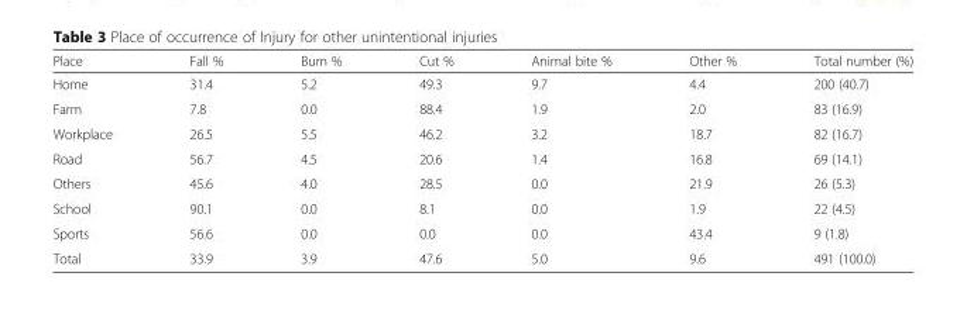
<table><thead><tr><td>Place</td><td>Fall %</td><td>Burn %</td><td>Cut %</td><td>Animal bite %</td><td>Other %</td><td>Total number (%)</td></tr></thead><tbody><tr><td>Home</td><td>31.4</td><td>5.2</td><td>49.3</td><td>9.7</td><td>4.4</td><td>200 (40.7)</td></tr><tr><td>Farm</td><td>7.8</td><td>0.0</td><td>88.4</td><td>1.9</td><td>2.0</td><td>83 (16.9)</td></tr><tr><td>Workplace</td><td>26.5</td><td>5.5</td><td>46.2</td><td>3.2</td><td>18.7</td><td>82 (16.7)</td></tr><tr><td>Road</td><td>56.7</td><td>4.5</td><td>20.6</td><td>1.4</td><td>16.8</td><td>69 (14.1)</td></tr><tr><td>Others</td><td>45.6</td><td>4.0</td><td>28.5</td><td>0.0</td><td>21.9</td><td>26 (5.3)</td></tr><tr><td>School</td><td>90.1</td><td>0.0</td><td>8.1</td><td>0.0</td><td>1.9</td><td>22 (4.5)</td></tr><tr><td>Sports</td><td>56.6</td><td>0.0</td><td>0.0</td><td>0.0</td><td>43.4</td><td>9 (1.8)</td></tr><tr><td>Total</td><td>33.9</td><td>3.9</td><td>47.6</td><td>5.0</td><td>9.6</td><td>491 (100.0)</td></tr></tbody></table>